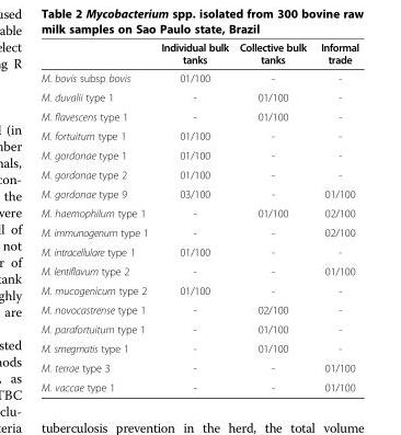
<table><thead><tr><td></td><td>Individual bulk tanks</td><td>Collective bulk tanks</td><td>Informal trade</td></tr></thead><tbody><tr><td>M. bovis subsp bovis</td><td>01/100</td><td>-</td><td>-</td></tr><tr><td>M. duvalii type 1</td><td>-</td><td>01/100</td><td>-</td></tr><tr><td>M. flavescens type 1</td><td>-</td><td>01/100</td><td>-</td></tr><tr><td>M. fortuitum type 1</td><td>01/100</td><td>-</td><td>-</td></tr><tr><td>M. gordonae type 1</td><td>01/100</td><td>-</td><td>-</td></tr><tr><td>M. gordonae type 2</td><td>01/100</td><td>-</td><td>-</td></tr><tr><td>M. gordonae type 9</td><td>03/100</td><td>-</td><td>01/100</td></tr><tr><td>M. haemophilum type 1</td><td>-</td><td>01/100</td><td>02/100</td></tr><tr><td>M. immunogenum type 1</td><td>-</td><td>-</td><td>02/100</td></tr><tr><td>M. intracellulare type 1</td><td>01/100</td><td>-</td><td>-</td></tr><tr><td>M. lentiflavum type 2</td><td>-</td><td>-</td><td>01/100</td></tr><tr><td>M. mucogenicum type 2</td><td>01/100</td><td>-</td><td>-</td></tr><tr><td>M. novocastrense type 1</td><td>-</td><td>02/100</td><td>-</td></tr><tr><td>M. parafortuitum type 1</td><td>-</td><td>01/100</td><td>-</td></tr><tr><td>M. smegmatis type 1</td><td>-</td><td>01/100</td><td>-</td></tr><tr><td>M. terrae type 3</td><td>-</td><td>-</td><td>01/100</td></tr><tr><td>M. vaccae type 1</td><td>-</td><td>-</td><td>01/100</td></tr></tbody></table>